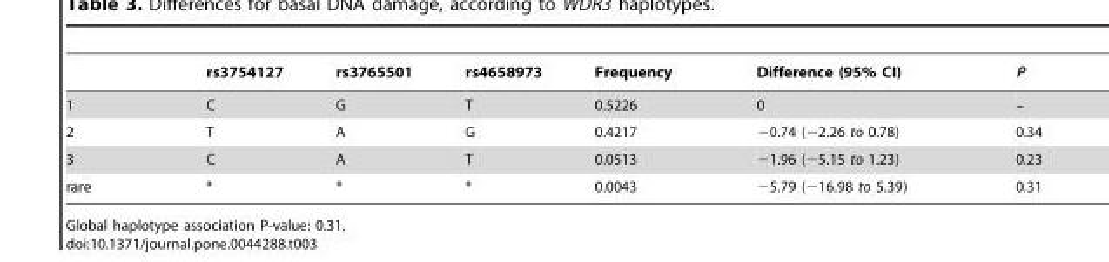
<table><thead><tr><td></td><td>rs3754127</td><td>rs3765501</td><td>rs4658973</td><td>Frequency</td><td>Difference (95% CI)</td><td>P</td></tr></thead><tbody><tr><td>1</td><td>C</td><td>G</td><td>T</td><td>0.5226</td><td>0</td><td>–</td></tr><tr><td>2</td><td>T</td><td>A</td><td>G</td><td>0.4217</td><td>−0.74 (−2.26 to 0.78)</td><td>0.34</td></tr><tr><td>3</td><td>C</td><td>A</td><td>T</td><td>0.0513</td><td>−1.96 (−5.15 to 1.23)</td><td>0.23</td></tr><tr><td>rare</td><td>*</td><td>*</td><td>*</td><td>0.0043</td><td>−5.79 (−16.98 to 5.39)</td><td>0.31</td></tr></tbody></table>